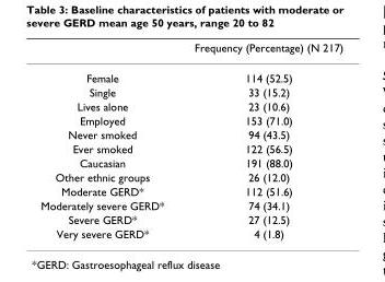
<table><thead><tr><td></td><td>Frequency (Percentage) (N 217)</td></tr></thead><tbody><tr><td>Female</td><td>114 (52.5)</td></tr><tr><td>Single</td><td>33 (15.2)</td></tr><tr><td>Lives alone</td><td>23 (10.6)</td></tr><tr><td>Employed</td><td>153 (71.0)</td></tr><tr><td>Never smoked</td><td>94 (43.5)</td></tr><tr><td>Ever smoked</td><td>122 (56.5)</td></tr><tr><td>Caucasian</td><td>191 (88.0)</td></tr><tr><td>Other ethnic groups</td><td>26 (12.0)</td></tr><tr><td>Moderate GERD*</td><td>112 (51.6)</td></tr><tr><td>Moderately severe GERD*</td><td>74 (34.1)</td></tr><tr><td>Severe GERD*</td><td>27 (12.5)</td></tr><tr><td>Very severe GERD*</td><td>4 (1.8)</td></tr></tbody></table>